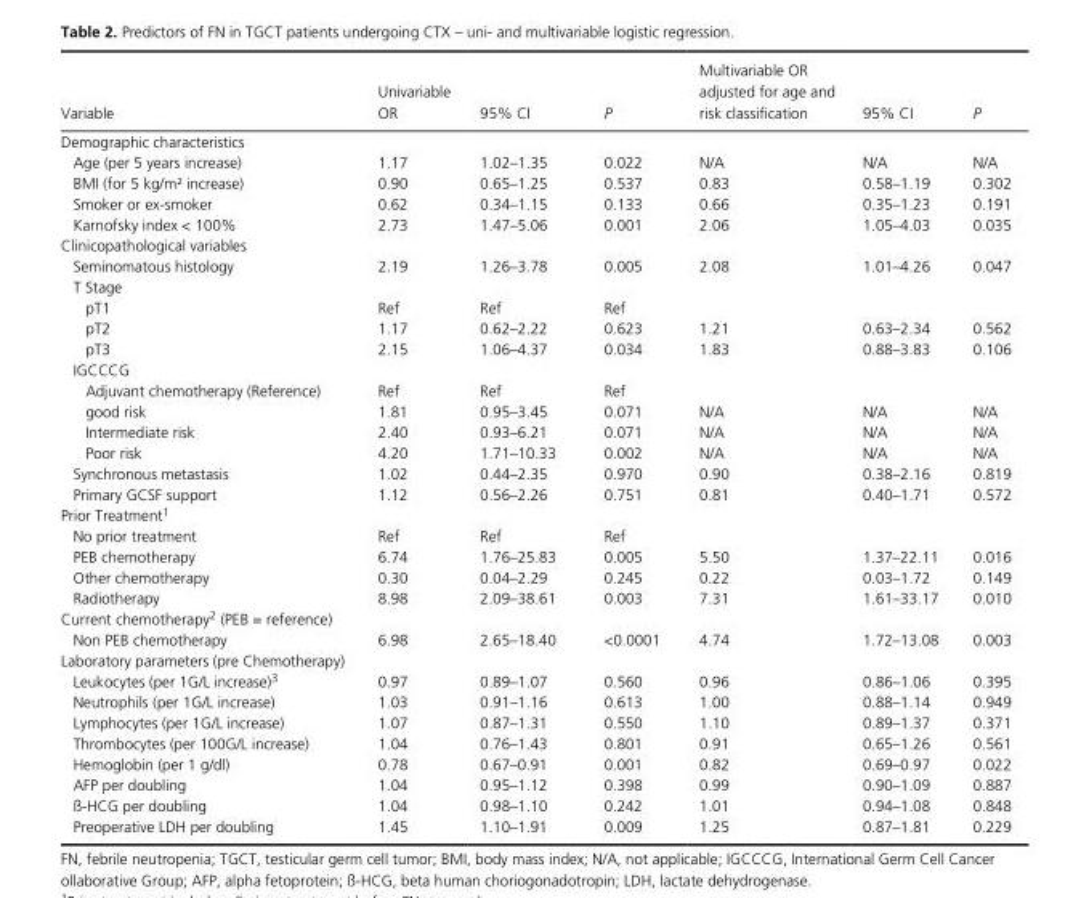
<table><thead><tr><td>Variable</td><td>Univariable OR</td><td>95% CI</td><td>P</td><td>Multivariable OR adjusted for age and risk classification</td><td>95% CI</td><td>P</td></tr></thead><tbody><tr><td colspan="7">Demographic characteristics</td></tr><tr><td>Age (per 5 years increase)</td><td>1.17</td><td>1.02–1.35</td><td>0.022</td><td>N/A</td><td>N/A</td><td>N/A</td></tr><tr><td>BMI (for 5 kg/m² increase)</td><td>0.90</td><td>0.65–1.25</td><td>0.537</td><td>0.83</td><td>0.58–1.19</td><td>0.302</td></tr><tr><td>Smoker or ex- smoker</td><td>0.62</td><td>0.34–1.15</td><td>0.133</td><td>0.66</td><td>0.35–1.23</td><td>0.191</td></tr><tr><td>Karnofsky index &lt; 100%</td><td>2.73</td><td>1.47–5.06</td><td>0.001</td><td>2.06</td><td>1.05–4.03</td><td>0.035</td></tr><tr><td colspan="7">Clinicopathological variables</td></tr><tr><td>Seminomatous histology</td><td>2.19</td><td>1.26–3.78</td><td>0.005</td><td>2.08</td><td>1.01–4.26</td><td>0.047</td></tr><tr><td colspan="7">T Stage</td></tr><tr><td>pT1</td><td>Ref</td><td>Ref</td><td>Ref</td><td></td><td></td><td></td></tr><tr><td>pT2</td><td>1.17</td><td>0.62–2.22</td><td>0.623</td><td>1.21</td><td>0.63–2.34</td><td>0.562</td></tr><tr><td>pT3</td><td>2.15</td><td>1.06–4.37</td><td>0.034</td><td>1.83</td><td>0.88–3.83</td><td>0.106</td></tr><tr><td colspan="7">IGCCCG</td></tr><tr><td>Adjuvant chemotherapy (Reference)</td><td>Ref</td><td>Ref</td><td>Ref</td><td></td><td></td><td></td></tr><tr><td>good risk</td><td>1.81</td><td>0.95–3.45</td><td>0.071</td><td>N/A</td><td>N/A</td><td>N/A</td></tr><tr><td>Intermediate risk</td><td>2.40</td><td>0.93–6.21</td><td>0.071</td><td>N/A</td><td>N/A</td><td>N/A</td></tr><tr><td>Poor risk</td><td>4.20</td><td>1.71–10.33</td><td>0.002</td><td>N/A</td><td>N/A</td><td>N/A</td></tr><tr><td>Synchronous metastasis</td><td>1.02</td><td>0.44–2.35</td><td>0.970</td><td>0.90</td><td>0.38–2.16</td><td>0.819</td></tr><tr><td>Primary GCSF support</td><td>1.12</td><td>0.56–2.26</td><td>0.751</td><td>0.81</td><td>0.40–1.71</td><td>0.572</td></tr><tr><td colspan="7">Prior Treatment1</td></tr><tr><td>No prior treatment</td><td>Ref</td><td>Ref</td><td>Ref</td><td></td><td></td><td></td></tr><tr><td>PEB chemotherapy</td><td>6.74</td><td>1.76–25.83</td><td>0.005</td><td>5.50</td><td>1.37–22.11</td><td>0.016</td></tr><tr><td>Other chemotherapy</td><td>0.30</td><td>0.04–2.29</td><td>0.245</td><td>0.22</td><td>0.03–1.72</td><td>0.149</td></tr><tr><td>Radiotherapy</td><td>8.98</td><td>2.09–38.61</td><td>0.003</td><td>7.31</td><td>1.61–33.17</td><td>0.010</td></tr><tr><td colspan="7">Current chemotherapy2 (PEB = reference)</td></tr><tr><td>Non PEB chemotherapy</td><td>6.98</td><td>2.65–18.40</td><td>&lt;0.0001</td><td>4.74</td><td>1.72–13.08</td><td>0.003</td></tr><tr><td colspan="7">Laboratory parameters (pre Chemotherapy)</td></tr><tr><td>Leukocytes (per 1G/L increase)3</td><td>0.97</td><td>0.89–1.07</td><td>0.560</td><td>0.96</td><td>0.86–1.06</td><td>0.395</td></tr><tr><td>Neutrophils (per 1G/L increase)</td><td>1.03</td><td>0.91–1.16</td><td>0.613</td><td>1.00</td><td>0.88–1.14</td><td>0.949</td></tr><tr><td>Lymphocytes (per 1G/L increase)</td><td>1.07</td><td>0.87–1.31</td><td>0.550</td><td>1.10</td><td>0.89–1.37</td><td>0.371</td></tr><tr><td>Thrombocytes (per 100G/L increase)</td><td>1.04</td><td>0.76–1.43</td><td>0.801</td><td>0.91</td><td>0.65–1.26</td><td>0.561</td></tr><tr><td>Hemoglobin (per 1 g/dl)</td><td>0.78</td><td>0.67–0.91</td><td>0.001</td><td>0.82</td><td>0.69–0.97</td><td>0.022</td></tr><tr><td>AFP per doubling</td><td>1.04</td><td>0.95–1.12</td><td>0.398</td><td>0.99</td><td>0.90–1.09</td><td>0.887</td></tr><tr><td>ß- HCG per doubling</td><td>1.04</td><td>0.98–1.10</td><td>0.242</td><td>1.01</td><td>0.94–1.08</td><td>0.848</td></tr><tr><td>Preoperative LDH per doubling</td><td>1.45</td><td>1.10–1.91</td><td>0.009</td><td>1.25</td><td>0.87–1.81</td><td>0.229</td></tr></tbody></table>